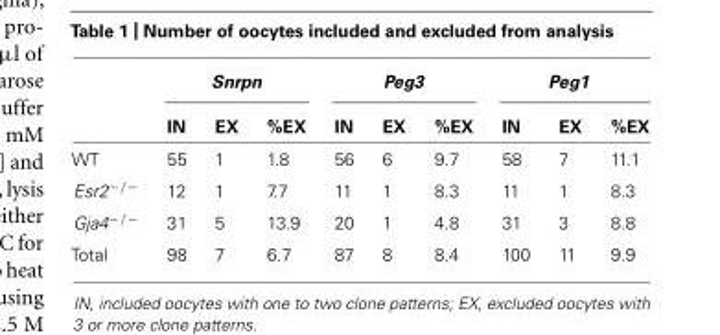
<table><thead><tr><td rowspan="2"></td><td colspan="3">Snrpn</td><td colspan="3">Peg3</td><td colspan="3">Peg1</td></tr><tr><td>IN</td><td>EX</td><td>%EX</td><td>IN</td><td>EX</td><td>%EX</td><td>IN</td><td>EX</td><td>%EX</td></tr></thead><tbody><tr><td>WT</td><td>55</td><td>1</td><td>1.8</td><td>56</td><td>6</td><td>9.7</td><td>58</td><td>7</td><td>11.1</td></tr><tr><td>Esr2<sup>−/−</sup></td><td>12</td><td>1</td><td>7.7</td><td>11</td><td>1</td><td>8.3</td><td>11</td><td>1</td><td>8.3</td></tr><tr><td>Gja4<sup>−/−</sup></td><td>31</td><td>5</td><td>13.9</td><td>20</td><td>1</td><td>4.8</td><td>31</td><td>3</td><td>8.8</td></tr><tr><td>Total</td><td>98</td><td>7</td><td>6.7</td><td>87</td><td>8</td><td>8.4</td><td>100</td><td>11</td><td>9.9</td></tr></tbody></table>